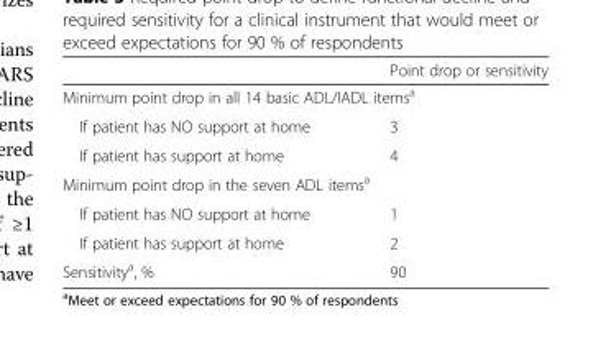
<table><thead><tr><td></td><td>Point drop or sensitivity</td></tr></thead><tbody><tr><td colspan="2">Minimum point drop in all 14 basic ADL/IADL items<sup>a</sup></td></tr><tr><td>If patient has NO support at home</td><td>3</td></tr><tr><td>If patient has support at home</td><td>4</td></tr><tr><td colspan="2">Minimum point drop in the seven ADL items<sup>a</sup></td></tr><tr><td>If patient has NO support at home</td><td>1</td></tr><tr><td>If patient has support at home</td><td>2</td></tr><tr><td>Sensitivity<sup>a</sup>, %</td><td>90</td></tr></tbody></table>